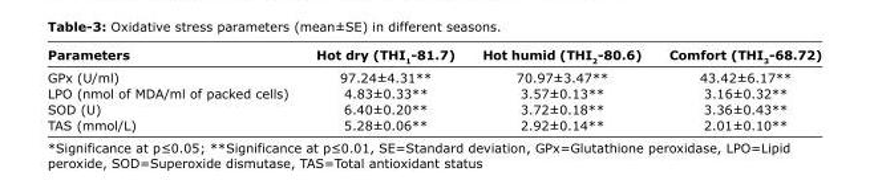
<table><thead><tr><td>Parameters</td><td>Hot dry (THI<sub>1</sub>-81.7)</td><td>Hot humid (THI<sub>2</sub>-80.6)</td><td>Comfort (THI<sub>3</sub>-68.72)</td></tr></thead><tbody><tr><td>GPx (U/ml)</td><td>97.24±4.31**</td><td>70.97±3.47**</td><td>43.42±6.17**</td></tr><tr><td>LPO (nmol of MDA/ml of packed cells)</td><td>4.83±0.33**</td><td>3.57±0.13**</td><td>3.16±0.32**</td></tr><tr><td>SOD (U)</td><td>6.40±0.20**</td><td>3.72±0.18**</td><td>3.36±0.43**</td></tr><tr><td>TAS (mmol/L)</td><td>5.28±0.06**</td><td>2.92±0.14**</td><td>2.01±0.10**</td></tr></tbody></table>